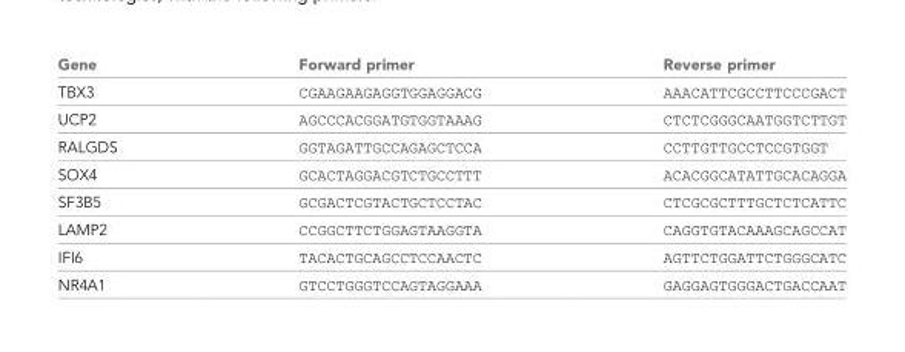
<table><thead><tr><td>Gene</td><td>Forward primer</td><td>Reverse primer</td></tr></thead><tbody><tr><td>TBX3</td><td>CGAAGAAGAGGTGGAGGACG</td><td>AAACATTCGCCTTCCCGACT</td></tr><tr><td>UCP2</td><td>AGCCCACGGATGTGGTAAAG</td><td>CTCTCGGGCAATGGTCTTGT</td></tr><tr><td>RALGDS</td><td>GGTAGATTGCCAGAGCTCCA</td><td>CCTTGTTGCCTCCGTGGT</td></tr><tr><td>SOX4</td><td>GCACTAGGACGTCTGCCTTT</td><td>ACACGGCATATTGCACAGGA</td></tr><tr><td>SF3B5</td><td>GCGACTCGTACTGCTCCTAC</td><td>CTCGCGCTTTGCTCTCATTC</td></tr><tr><td>LAMP2</td><td>CCGGCTTCTGGAGTAAGGTA</td><td>CAGGTGTACAAAGCAGCCAT</td></tr><tr><td>IFI6</td><td>TACACTGCAGCCTCCAACTC</td><td>AGTTCTGGATTCTGGGCATC</td></tr><tr><td>NR4A1</td><td>GTCCTGGGTCCAGTAGGAAA</td><td>GAGGAGTGGGACTGACCAAT</td></tr></tbody></table>